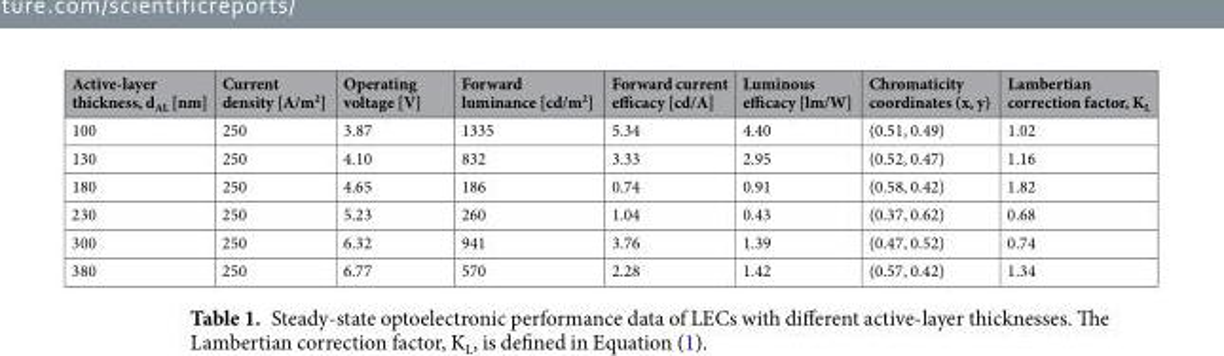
<table><thead><tr><td>Active-layer thickness, d<sub>AL</sub> [nm]</td><td>Current density [A/m<sup>2</sup>]</td><td>Operating voltage [V]</td><td>Forward luminance [cd/m<sup>2</sup>]</td><td>Forward current efficacy [cd/A]</td><td>Luminous efficacy [lm/W]</td><td>Chromaticity coordinates (x, y)</td><td>Lambertian correction factor, K<sub>L</sub></td></tr></thead><tbody><tr><td>100</td><td>250</td><td>3.87</td><td>1335</td><td>5.34</td><td>4.40</td><td>(0.51, 0.49)</td><td>1.02</td></tr><tr><td>130</td><td>250</td><td>4.10</td><td>832</td><td>3.33</td><td>2.95</td><td>(0.52, 0.47)</td><td>1.16</td></tr><tr><td>180</td><td>250</td><td>4.65</td><td>186</td><td>0.74</td><td>0.91</td><td>(0.58, 0.42)</td><td>1.82</td></tr><tr><td>230</td><td>250</td><td>5.23</td><td>260</td><td>1.04</td><td>0.43</td><td>(0.37, 0.62)</td><td>0.68</td></tr><tr><td>300</td><td>250</td><td>6.32</td><td>941</td><td>3.76</td><td>1.39</td><td>(0.47, 0.52)</td><td>0.74</td></tr><tr><td>380</td><td>250</td><td>6.77</td><td>570</td><td>2.28</td><td>1.42</td><td>(0.57, 0.42)</td><td>1.34</td></tr></tbody></table>